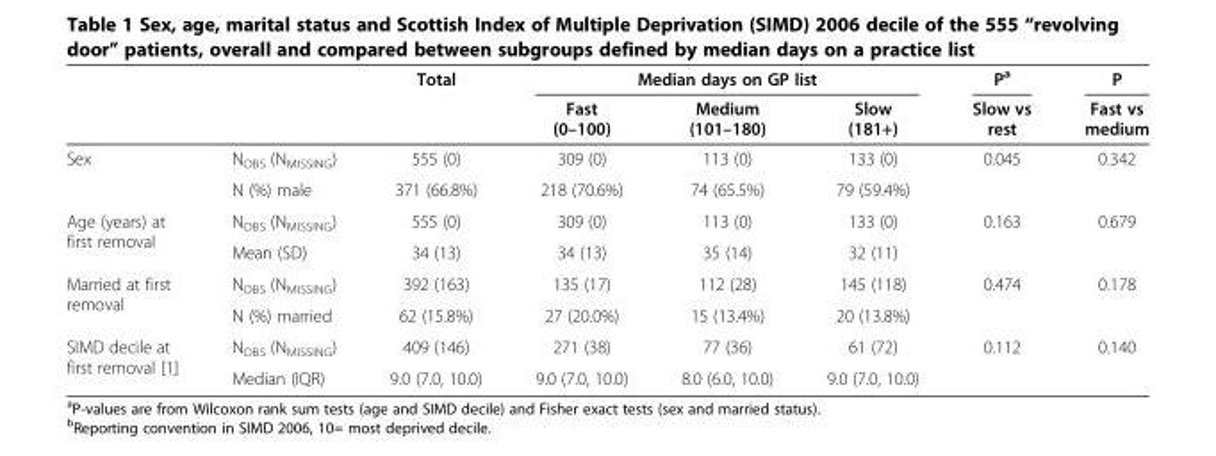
<table><thead><tr><td rowspan="2"></td><td rowspan="2"></td><td rowspan="2">Total</td><td colspan="3">Median days on GP list</td><td rowspan="2">P<sup>a</sup> Slow vs rest</td><td rowspan="2">P Fast vs medium</td></tr><tr><td>Fast (0–100)</td><td>Medium (101–180)</td><td>Slow (181+)</td></tr></thead><tbody><tr><td rowspan="2">Sex</td><td>N<sub>OBS</sub> (N<sub>MISSING</sub>)</td><td>555 (0)</td><td>309 (0)</td><td>113 (0)</td><td>133 (0)</td><td rowspan="2">0.045</td><td rowspan="2">0.342</td></tr><tr><td>N (%) male</td><td>371 (66.8%)</td><td>218 (70.6%)</td><td>74 (65.5%)</td><td>79 (59.4%)</td></tr><tr><td rowspan="2">Age (years) at first removal</td><td>N<sub>OBS</sub> (N<sub>MISSING</sub>)</td><td>555 (0)</td><td>309 (0)</td><td>113 (0)</td><td>133 (0)</td><td rowspan="2">0.163</td><td rowspan="2">0.679</td></tr><tr><td>Mean (SD)</td><td>34 (13)</td><td>34 (13)</td><td>35 (14)</td><td>32 (11)</td></tr><tr><td rowspan="2">Married at first removal</td><td>N<sub>OBS</sub> (N<sub>MISSING</sub>)</td><td>392 (163)</td><td>135 (17)</td><td>112 (28)</td><td>145 (118)</td><td rowspan="2">0.474</td><td rowspan="2">0.178</td></tr><tr><td>N (%) married</td><td>62 (15.8%)</td><td>27 (20.0%)</td><td>15 (13.4%)</td><td>20 (13.8%)</td></tr><tr><td rowspan="2">SIMD decile at first removal [1]</td><td>N<sub>OBS</sub> (N<sub>MISSING</sub>)</td><td>409 (146)</td><td>271 (38)</td><td>77 (36)</td><td>61 (72)</td><td rowspan="2">0.112</td><td rowspan="2">0.140</td></tr><tr><td>Median (IQR)</td><td>9.0 (7.0, 10.0)</td><td>9.0 (7.0, 10.0)</td><td>8.0 (6.0, 10.0)</td><td>9.0 (7.0, 10.0)</td></tr></tbody></table>